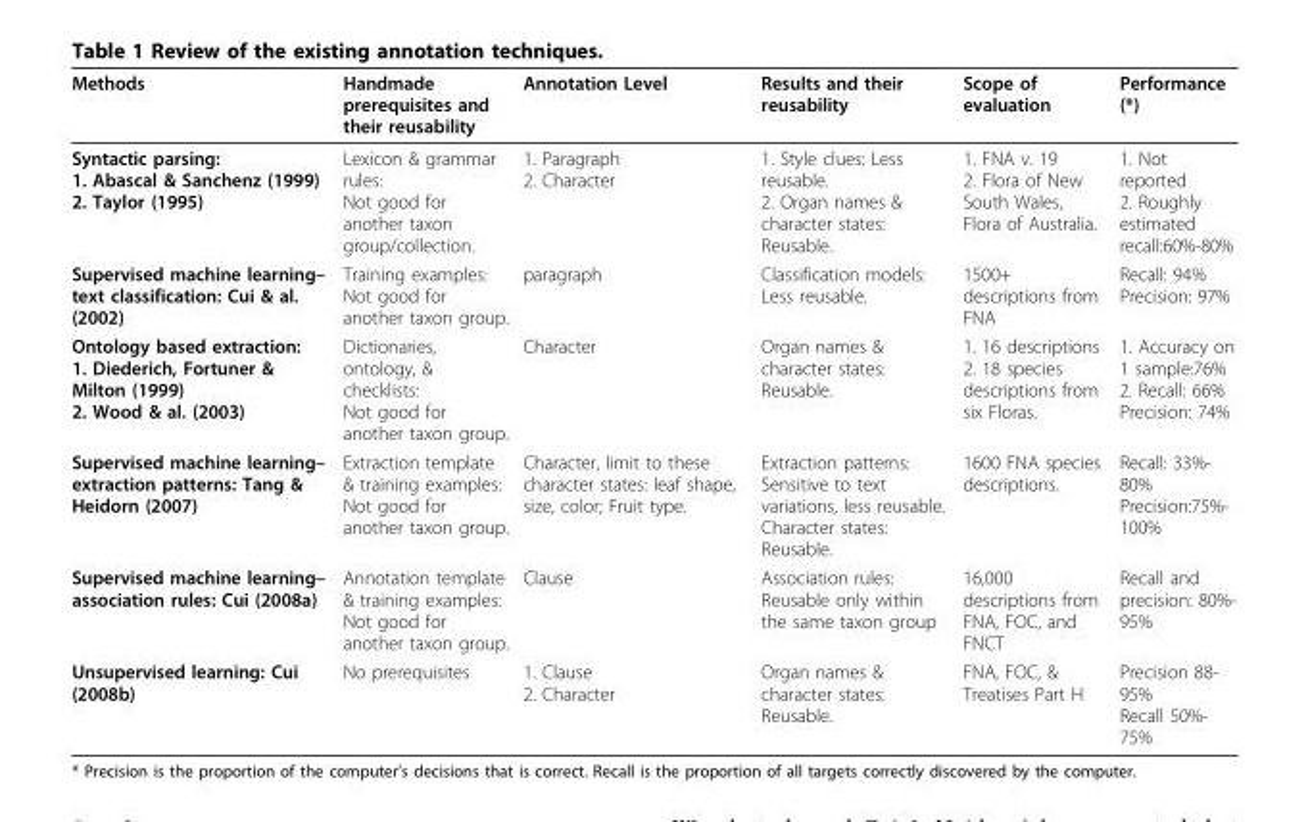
<table><thead><tr><td>Methods</td><td>Handmade prerequisites and their reusability</td><td>Annotation Level</td><td>Results and their reusability</td><td>Scope of evaluation</td><td>Performance (*)</td></tr></thead><tbody><tr><td>Syntactic parsing: 1. Abascal &amp; Sanchenz (1999) 2. Taylor (1995)</td><td>Lexicon &amp; grammar rules: Not good for another taxon group/collection.</td><td>1. Paragraph 2. Character</td><td>1. Style clues: Less reusable. 2. Organ names &amp; character states: Reusable.</td><td>1. FNA v. 19 2. Flora of New South Wales, Flora of Australia.</td><td>1. Not reported 2. Roughly estimated recall:60%-80%</td></tr><tr><td>Supervised machine learning– text classification: Cui &amp; al. (2002)</td><td>Training examples: Not good for another taxon group.</td><td>paragraph</td><td>Classification models: Less reusable.</td><td>1500+ descriptions from FNA</td><td>Recall: 94% Precision: 97%</td></tr><tr><td>Ontology based extraction: 1. Diederich, Fortuner &amp; Milton (1999) 2. Wood &amp; al. (2003)</td><td>Dictionaries, ontology, &amp; checklists: Not good for another taxon group.</td><td>Character</td><td>Organ names &amp; character states: Reusable.</td><td>1. 16 descriptions 2. 18 species descriptions from six Floras.</td><td>1. Accuracy on 1 sample:76% 2. Recall: 66% Precision: 74%</td></tr><tr><td>Supervised machine learning– extraction patterns: Tang &amp; Heidorn (2007)</td><td>Extraction template &amp; training examples: Not good for another taxon group.</td><td>Character, limit to these character states: leaf shape, size, color; Fruit type.</td><td>Extraction patterns: Sensitive to text variations, less reusable. Character states: Reusable.</td><td>1600 FNA species descriptions.</td><td>Recall: 33%- 80% Precision:75%- 100%</td></tr><tr><td>Supervised machine learning– association rules: Cui (2008a)</td><td>Annotation template &amp; training examples: Not good for another taxon group.</td><td>Clause</td><td>Association rules: Reusable only within the same taxon group</td><td>16,000 descriptions from FNA, FOC, and FNCT</td><td>Recall and precision: 80%- 95%</td></tr><tr><td>Unsupervised learning: Cui (2008b)</td><td>No prerequisites</td><td>1. Clause 2. Character</td><td>Organ names &amp; character states: Reusable.</td><td>FNA, FOC, &amp; Treatises Part H</td><td>Precision 88- 95% Recall 50%- 75%</td></tr></tbody></table>